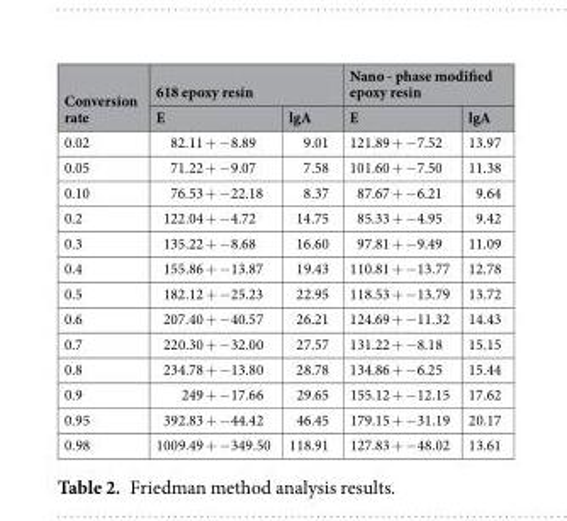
<table><thead><tr><td rowspan="2">Conversion rate</td><td colspan="2">618 epoxy resin</td><td colspan="2">Nano - phase modified epoxy resin</td></tr><tr><td>E</td><td>lgA</td><td>E</td><td>lgA</td></tr></thead><tbody><tr><td>0.02</td><td>82.11 + −8.89</td><td>9.01</td><td>121.89 + −7.52</td><td>13.97</td></tr><tr><td>0.05</td><td>71.22 + −9.07</td><td>7.58</td><td>101.60 + −7.50</td><td>11.38</td></tr><tr><td>0.10</td><td>76.53 + −22.18</td><td>8.37</td><td>87.67 + −6.21</td><td>9.64</td></tr><tr><td>0.2</td><td>122.04 + −4.72</td><td>14.75</td><td>85.33 + −4.95</td><td>9.42</td></tr><tr><td>0.3</td><td>135.22 + −8.68</td><td>16.60</td><td>97.81 + −9.49</td><td>11.09</td></tr><tr><td>0.4</td><td>155.86 + −13.87</td><td>19.43</td><td>110.81 + −13.77</td><td>12.78</td></tr><tr><td>0.5</td><td>182.12 + −25.23</td><td>22.95</td><td>118.53 + −13.79</td><td>13.72</td></tr><tr><td>0.6</td><td>207.40 + −40.57</td><td>26.21</td><td>124.69 + −11.32</td><td>14.43</td></tr><tr><td>0.7</td><td>220.30 + −32.00</td><td>27.57</td><td>131.22 + −8.18</td><td>15.15</td></tr><tr><td>0.8</td><td>234.78 + −13.80</td><td>28.78</td><td>134.86 + −6.25</td><td>15.44</td></tr><tr><td>0.9</td><td>249 + −17.66</td><td>29.65</td><td>155.12 + −12.15</td><td>17.62</td></tr><tr><td>0.95</td><td>392.83 + −44.42</td><td>46.45</td><td>179.15 + −31.19</td><td>20.17</td></tr><tr><td>0.98</td><td>1009.49 + −349.50</td><td>118.91</td><td>127.83 + −48.02</td><td>13.61</td></tr></tbody></table>